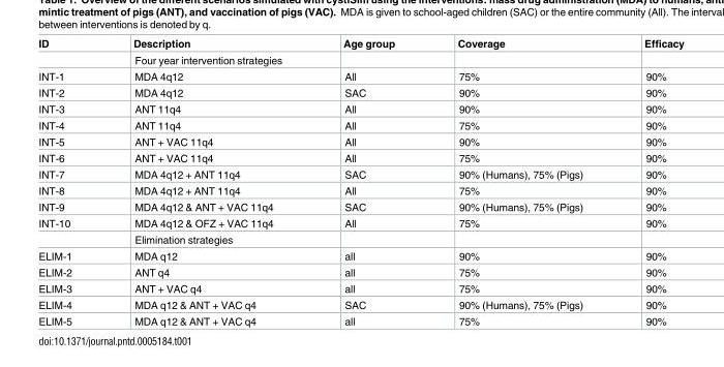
<table><thead><tr><td>ID</td><td>Description</td><td>Age group</td><td>Coverage</td><td>Efficacy</td></tr></thead><tbody><tr><td></td><td>Four year intervention strategies</td><td></td><td></td><td></td></tr><tr><td>INT-1</td><td>MDA 4q12</td><td>All</td><td>75%</td><td>90%</td></tr><tr><td>INT-2</td><td>MDA 4q12</td><td>SAC</td><td>90%</td><td>90%</td></tr><tr><td>INT-3</td><td>ANT 11q4</td><td>All</td><td>90%</td><td>90%</td></tr><tr><td>INT-4</td><td>ANT 11q4</td><td>All</td><td>75%</td><td>90%</td></tr><tr><td>INT-5</td><td>ANT + VAC 11q4</td><td>All</td><td>90%</td><td>90%</td></tr><tr><td>INT-6</td><td>ANT + VAC 11q4</td><td>All</td><td>75%</td><td>90%</td></tr><tr><td>INT-7</td><td>MDA 4q12 + ANT 11q4</td><td>SAC</td><td>90% (Humans), 75% (Pigs)</td><td>90%</td></tr><tr><td>INT-8</td><td>MDA 4q12 + ANT 11q4</td><td>All</td><td>75%</td><td>90%</td></tr><tr><td>INT-9</td><td>MDA 4q12 &amp; ANT + VAC 11q4</td><td>SAC</td><td>90% (Humans), 75% (Pigs)</td><td>90%</td></tr><tr><td rowspan="2">INT-10</td><td>MDA 4q12 &amp; OFZ + VAC 11q4</td><td>All</td><td>75%</td><td>90%</td></tr><tr><td>Elimination strategies</td><td></td><td></td><td></td></tr><tr><td>ELIM-1</td><td>MDA q12</td><td>all</td><td>90%</td><td>90%</td></tr><tr><td>ELIM-2</td><td>ANT q4</td><td>all</td><td>75%</td><td>90%</td></tr><tr><td>ELIM-3</td><td>ANT + VAC q4</td><td>all</td><td>75%</td><td>90%</td></tr><tr><td>ELIM-4</td><td>MDA q12 &amp; ANT + VAC q4</td><td>SAC</td><td>90% (Humans), 75% (Pigs)</td><td>90%</td></tr><tr><td>ELIM-5</td><td>MDA q12 &amp; ANT + VAC q4</td><td>all</td><td>75%</td><td>90%</td></tr></tbody></table>